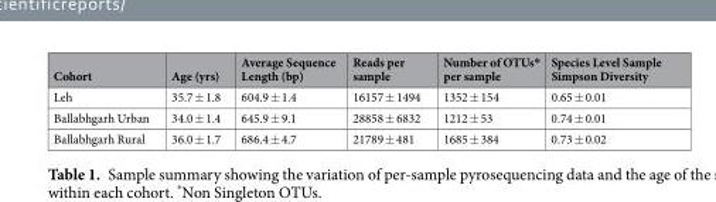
<table><thead><tr><td>Cohort</td><td>Age (yrs)</td><td>Average Sequence Length (bp)</td><td>Reads per sample</td><td>Number of OTUs* per sample</td><td>Species Level Sample Simpson Diversity</td></tr></thead><tbody><tr><td>Leh</td><td>35.7 ± 1.8</td><td>604.9 ± 1.4</td><td>16157 ± 1494</td><td>1352 ± 154</td><td>0.65 ± 0.01</td></tr><tr><td>Ballabhgarh Urban</td><td>34.0 ± 1.4</td><td>645.9 ± 9.1</td><td>28858 ± 6832</td><td>1212 ± 53</td><td>0.74 ± 0.01</td></tr><tr><td>Ballabhgarh Rural</td><td>36.0 ± 1.7</td><td>686.4 ± 4.7</td><td>21789 ± 481</td><td>1685 ± 384</td><td>0.73 ± 0.02</td></tr></tbody></table>